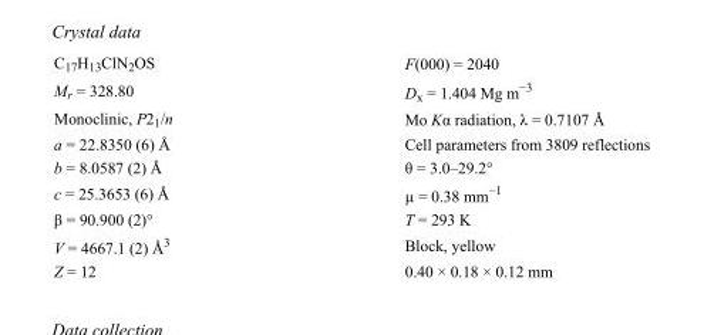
<table><tbody><tr><td>C<sub>17</sub>H<sub>13</sub>ClN<sub>2</sub>OS</td><td>F(000) = 2040</td></tr><tr><td>M<sub>r</sub> = 328.80</td><td>D<sub>x</sub> = 1.404 Mg m<sup>−3</sup></td></tr><tr><td>Monoclinic, P2<sub>1</sub>/n</td><td>Mo Kα radiation, λ = 0.7107 Å</td></tr><tr><td>a = 22.8350 (6) Å</td><td>Cell parameters from 3809 reflections</td></tr><tr><td>b = 8.0587 (2) Å</td><td>θ = 3.0–29.2°</td></tr><tr><td>c = 25.3653 (6) Å</td><td>µ = 0.38 mm<sup>−1</sup></td></tr><tr><td>β = 90.900 (2)°</td><td>T = 293 K</td></tr><tr><td>V = 4667.1 (2) Å<sup>3</sup></td><td>Block, yellow</td></tr><tr><td>Z = 12</td><td>0.40 × 0.18 × 0.12 mm</td></tr></tbody></table>